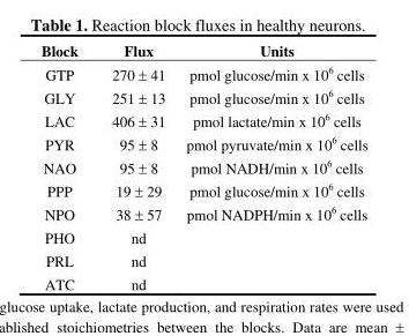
<table><thead><tr><td>Block</td><td>Flux</td><td>Units</td></tr></thead><tbody><tr><td>GTP</td><td>270 ± 41</td><td>pmol glucose/min x 10<sup>6</sup> cells</td></tr><tr><td>GLY</td><td>251 ± 13</td><td>pmol glucose/min x 10<sup>6</sup> cells</td></tr><tr><td>LAC</td><td>406 ± 31</td><td>pmol lactate/min x 10<sup>6</sup> cells</td></tr><tr><td>PYR</td><td>95 ± 8</td><td>pmol pyruvate/min x 10<sup>6</sup> cells</td></tr><tr><td>NAO</td><td>95 ± 8</td><td>pmol NADH/min x 10<sup>6</sup> cells</td></tr><tr><td>PPP</td><td>19 ± 29</td><td>pmol glucose/min x 10<sup>6</sup> cells</td></tr><tr><td>NPO</td><td>38 ± 57</td><td>pmol NADPH/min x 10<sup>6</sup> cells</td></tr><tr><td>PHO</td><td>nd</td><td></td></tr><tr><td>PRL</td><td>nd</td><td></td></tr><tr><td>ATC</td><td>nd</td><td></td></tr></tbody></table>